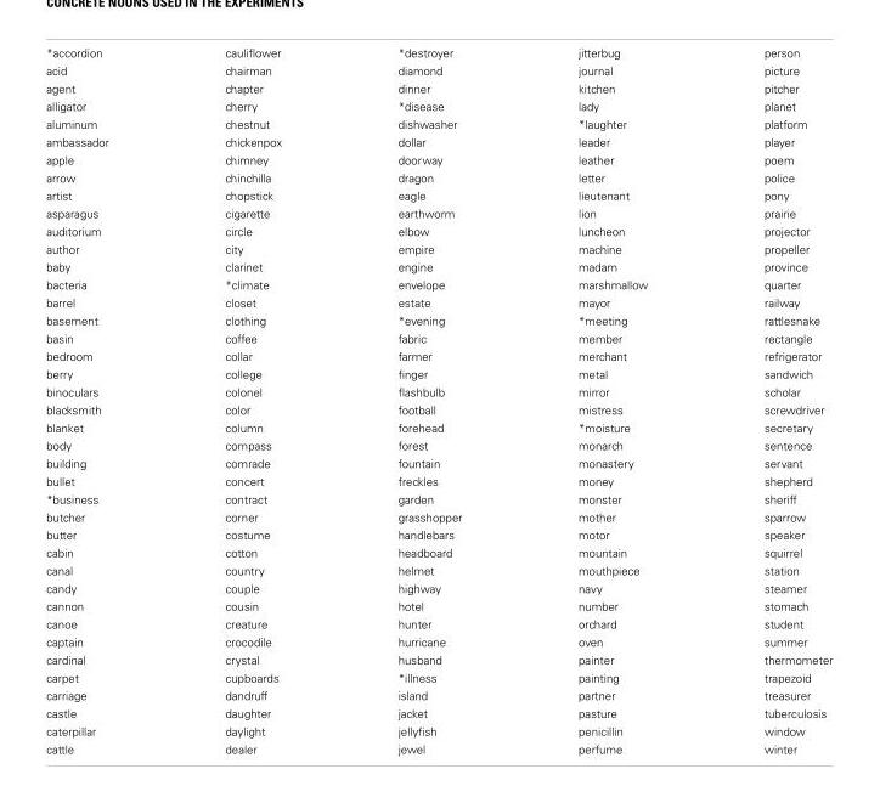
<table><tbody><tr><td>*accordion</td><td>cauliflower</td><td>*destroyer</td><td>jitterbug</td><td>person</td></tr><tr><td>acid</td><td>chairman</td><td>diamond</td><td>journal</td><td>picture</td></tr><tr><td>agent</td><td>chapter</td><td>dinner</td><td>kitchen</td><td>pitcher</td></tr><tr><td>alligator</td><td>cherry</td><td>*disease</td><td>lady</td><td>planet</td></tr><tr><td>aluminum</td><td>chestnut</td><td>dishwasher</td><td>*laughter</td><td>platform</td></tr><tr><td>ambassador</td><td>chickenpox</td><td>dollar</td><td>leader</td><td>player</td></tr><tr><td>apple</td><td>chimney</td><td>doorway</td><td>leather</td><td>poem</td></tr><tr><td>arrow</td><td>chinchilla</td><td>dragon</td><td>letter</td><td>police</td></tr><tr><td>artist</td><td>chopstick</td><td>eagle</td><td>lieutenant</td><td>pony</td></tr><tr><td>asparagus</td><td>cigarette</td><td>earthworm</td><td>lion</td><td>prairie</td></tr><tr><td>auditorium</td><td>circle</td><td>elbow</td><td>luncheon</td><td>projector</td></tr><tr><td>author</td><td>city</td><td>empire</td><td>machine</td><td>propeller</td></tr><tr><td>baby</td><td>clarinet</td><td>engine</td><td>madam</td><td>province</td></tr><tr><td>bacteria</td><td>*climate</td><td>envelope</td><td>marshmallow</td><td>quarter</td></tr><tr><td>barrel</td><td>closet</td><td>estate</td><td>mayor</td><td>railway</td></tr><tr><td>basement</td><td>clothing</td><td>*evening</td><td>*meeting</td><td>rattlesnake</td></tr><tr><td>basin</td><td>coffee</td><td>fabric</td><td>member</td><td>rectangle</td></tr><tr><td>bedroom</td><td>collar</td><td>farmer</td><td>merchant</td><td>refrigerator</td></tr><tr><td>berry</td><td>college</td><td>finger</td><td>metal</td><td>sandwich</td></tr><tr><td>binoculars</td><td>colonel</td><td>flashbulb</td><td>mirror</td><td>scholar</td></tr><tr><td>blacksmith</td><td>color</td><td>football</td><td>mistress</td><td>screwdriver</td></tr><tr><td>blanket</td><td>column</td><td>forehead</td><td>*moisture</td><td>secretary</td></tr><tr><td>body</td><td>compass</td><td>forest</td><td>monarch</td><td>sentence</td></tr><tr><td>building</td><td>comrade</td><td>fountain</td><td>monastery</td><td>servant</td></tr><tr><td>bullet</td><td>concert</td><td>freckles</td><td>money</td><td>shepherd</td></tr><tr><td>*business</td><td>contract</td><td>garden</td><td>monster</td><td>sheriff</td></tr><tr><td>butcher</td><td>corner</td><td>grasshopper</td><td>mother</td><td>sparrow</td></tr><tr><td>butter</td><td>costume</td><td>handlebars</td><td>motor</td><td>speaker</td></tr><tr><td>cabin</td><td>cotton</td><td>headboard</td><td>mountain</td><td>squirrel</td></tr><tr><td>canal</td><td>country</td><td>helmet</td><td>mouthpiece</td><td>station</td></tr><tr><td>candy</td><td>couple</td><td>highway</td><td>navy</td><td>steamer</td></tr><tr><td>cannon</td><td>cousin</td><td>hotel</td><td>number</td><td>stomach</td></tr><tr><td>canoe</td><td>creature</td><td>hunter</td><td>orchard</td><td>student</td></tr><tr><td>captain</td><td>crocodile</td><td>hurricane</td><td>oven</td><td>summer</td></tr><tr><td>cardinal</td><td>crystal</td><td>husband</td><td>painter</td><td>thermometer</td></tr><tr><td>carpet</td><td>cupboards</td><td>*illness</td><td>painting</td><td>trapezoid</td></tr><tr><td>carriage</td><td>dandruff</td><td>island</td><td>partner</td><td>treasurer</td></tr><tr><td>castle</td><td>daughter</td><td>jacket</td><td>pasture</td><td>tuberculosis</td></tr><tr><td>caterpillar</td><td>daylight</td><td>jellyfish</td><td>penicillin</td><td>window</td></tr><tr><td>cattle</td><td>dealer</td><td>jewel</td><td>perfume</td><td>winter</td></tr></tbody></table>